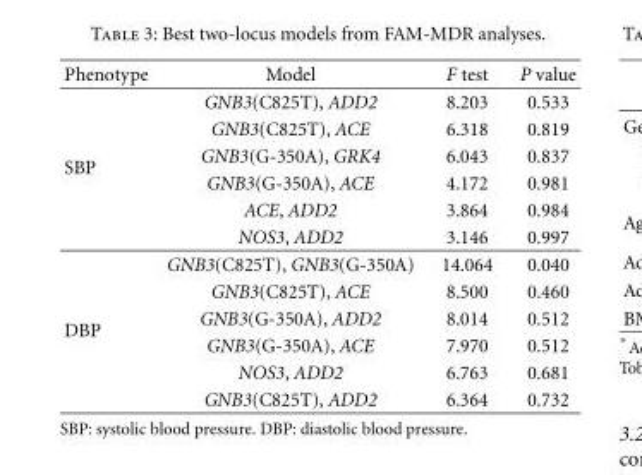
<table><thead><tr><td>Phenotype</td><td>Model</td><td>F test</td><td>P value</td></tr></thead><tbody><tr><td rowspan="6">SBP</td><td>GNB3(C825T), ADD2</td><td>8.203</td><td>0.533</td></tr><tr><td>GNB3(C825T), ACE</td><td>6.318</td><td>0.819</td></tr><tr><td>GNB3(G-350A), GRK4</td><td>6.043</td><td>0.837</td></tr><tr><td>GNB3(G-350A), ACE</td><td>4.172</td><td>0.981</td></tr><tr><td>ACE, ADD2</td><td>3.864</td><td>0.984</td></tr><tr><td>NOS3, ADD2</td><td>3.146</td><td>0.997</td></tr><tr><td rowspan="6">DBP</td><td>GNB3(C825T), GNB3(G-350A)</td><td>14.064</td><td>0.040</td></tr><tr><td>GNB3(C825T), ACE</td><td>8.500</td><td>0.460</td></tr><tr><td>GNB3(G-350A), ADD2</td><td>8.014</td><td>0.512</td></tr><tr><td>GNB3(G-350A), ACE</td><td>7.970</td><td>0.512</td></tr><tr><td>NOS3, ADD2</td><td>6.763</td><td>0.681</td></tr><tr><td>GNB3(C825T), ADD2</td><td>6.364</td><td>0.732</td></tr></tbody></table>